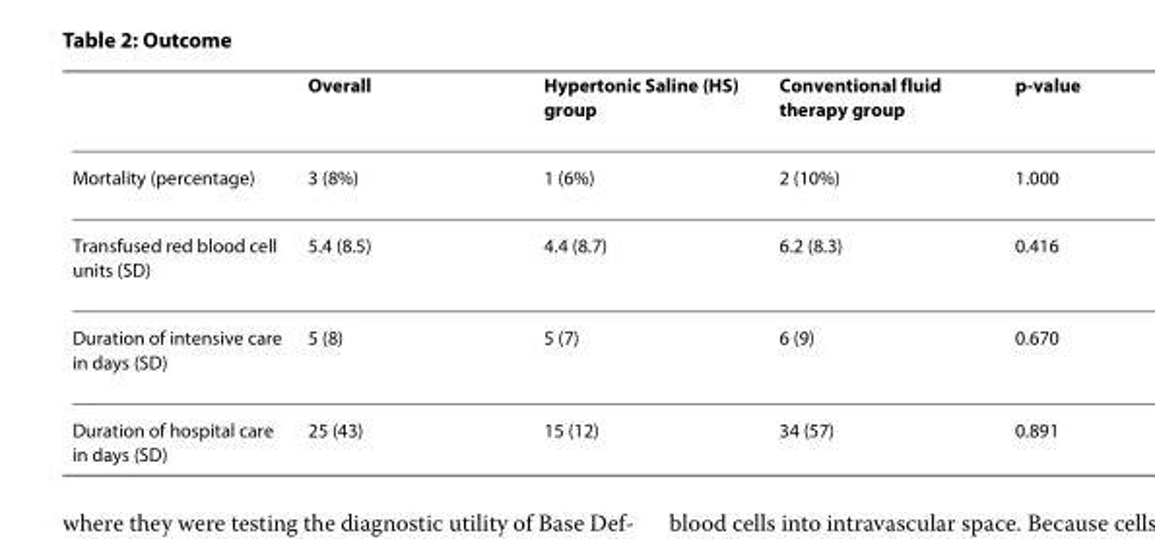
<table><thead><tr><td></td><td>Overall</td><td>Hypertonic Saline (HS) group</td><td>Conventional fluid therapy group</td><td>p-value</td></tr></thead><tbody><tr><td>Mortality (percentage)</td><td>3 (8%)</td><td>1 (6%)</td><td>2 (10%)</td><td>1.000</td></tr><tr><td>Transfused red blood cell units (SD)</td><td>5.4 (8.5)</td><td>4.4 (8.7)</td><td>6.2 (8.3)</td><td>0.416</td></tr><tr><td>Duration of intensive care in days (SD)</td><td>5 (8)</td><td>5 (7)</td><td>6 (9)</td><td>0.670</td></tr><tr><td>Duration of hospital care in days (SD)</td><td>25 (43)</td><td>15 (12)</td><td>34 (57)</td><td>0.891</td></tr></tbody></table>